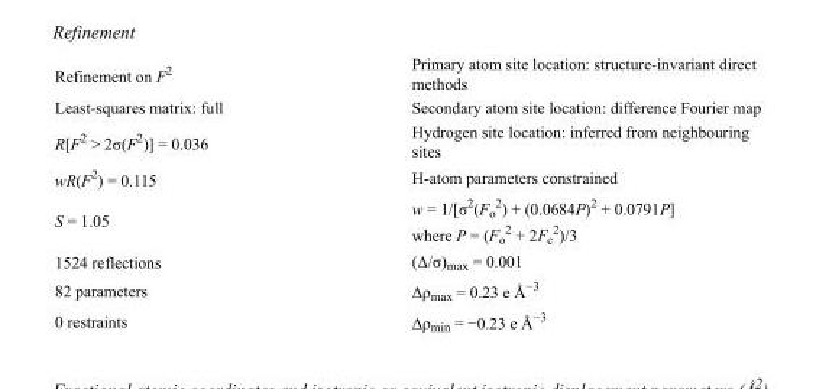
<table><tbody><tr><td>Refinement on F<sup>2</sup></td><td>Primary atom site location: structure-invariant direct methods</td></tr><tr><td>Least-squares matrix: full</td><td>Secondary atom site location: difference Fourier map</td></tr><tr><td>R[F<sup>2</sup> &gt; 2σ(F<sup>2</sup>)] = 0.036</td><td>Hydrogen site location: inferred from neighbouring sites</td></tr><tr><td>wR(F<sup>2</sup>) = 0.115</td><td>H-atom parameters constrained</td></tr><tr><td>S = 1.05</td><td>w = 1/[σ<sup>2</sup>(F<sub>o</sub> <sup>2</sup>) + (0.0684P)<sup>2</sup> + 0.0791P] where P = (F<sub>o</sub> <sup>2</sup> + 2F<sub>c</sub> <sup>2</sup>)/3</td></tr><tr><td>1524 reflections</td><td>(Δ/σ)<sub>max</sub> = 0.001</td></tr><tr><td>82 parameters</td><td>Δρ<sub>max</sub> = 0.23 e Å<sup>−3</sup></td></tr><tr><td>0 restraints</td><td>Δρ<sub>min</sub> = −0.23 e Å<sup>−3</sup></td></tr></tbody></table>